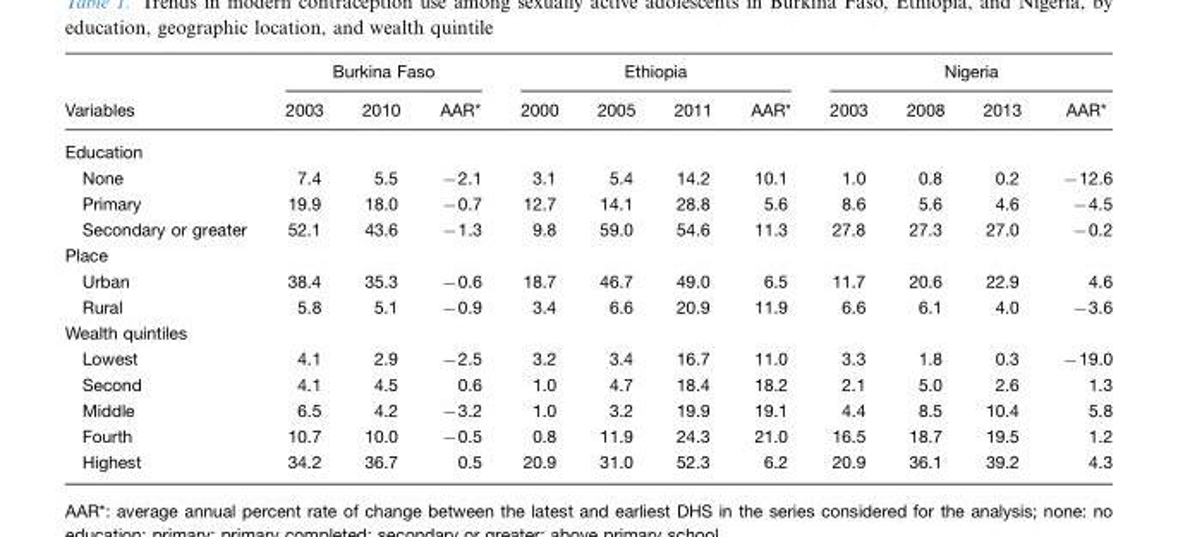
<table><thead><tr><td rowspan="2">Variables</td><td colspan="3">Burkina Faso</td><td colspan="4">Ethiopia</td><td colspan="4">Nigeria</td></tr><tr><td>2003</td><td>2010</td><td>AAR*</td><td>2000</td><td>2005</td><td>2011</td><td>AAR*</td><td>2003</td><td>2008</td><td>2013</td><td>AAR*</td></tr></thead><tbody><tr><td colspan="12">Education</td></tr><tr><td>None</td><td>7.4</td><td>5.5</td><td>−2.1</td><td>3.1</td><td>5.4</td><td>14.2</td><td>10.1</td><td>1.0</td><td>0.8</td><td>0.2</td><td>−12.6</td></tr><tr><td>Primary</td><td>19.9</td><td>18.0</td><td>−0.7</td><td>12.7</td><td>14.1</td><td>28.8</td><td>5.6</td><td>8.6</td><td>5.6</td><td>4.6</td><td>−4.5</td></tr><tr><td>Secondary or greater</td><td>52.1</td><td>43.6</td><td>−1.3</td><td>9.8</td><td>59.0</td><td>54.6</td><td>11.3</td><td>27.8</td><td>27.3</td><td>27.0</td><td>−0.2</td></tr><tr><td colspan="12">Place</td></tr><tr><td>Urban</td><td>38.4</td><td>35.3</td><td>−0.6</td><td>18.7</td><td>46.7</td><td>49.0</td><td>6.5</td><td>11.7</td><td>20.6</td><td>22.9</td><td>4.6</td></tr><tr><td>Rural</td><td>5.8</td><td>5.1</td><td>−0.9</td><td>3.4</td><td>6.6</td><td>20.9</td><td>11.9</td><td>6.6</td><td>6.1</td><td>4.0</td><td>−3.6</td></tr><tr><td colspan="12">Wealth quintiles</td></tr><tr><td>Lowest</td><td>4.1</td><td>2.9</td><td>−2.5</td><td>3.2</td><td>3.4</td><td>16.7</td><td>11.0</td><td>3.3</td><td>1.8</td><td>0.3</td><td>−19.0</td></tr><tr><td>Second</td><td>4.1</td><td>4.5</td><td>0.6</td><td>1.0</td><td>4.7</td><td>18.4</td><td>18.2</td><td>2.1</td><td>5.0</td><td>2.6</td><td>1.3</td></tr><tr><td>Middle</td><td>6.5</td><td>4.2</td><td>−3.2</td><td>1.0</td><td>3.2</td><td>19.9</td><td>19.1</td><td>4.4</td><td>8.5</td><td>10.4</td><td>5.8</td></tr><tr><td>Fourth</td><td>10.7</td><td>10.0</td><td>−0.5</td><td>0.8</td><td>11.9</td><td>24.3</td><td>21.0</td><td>16.5</td><td>18.7</td><td>19.5</td><td>1.2</td></tr><tr><td>Highest</td><td>34.2</td><td>36.7</td><td>0.5</td><td>20.9</td><td>31.0</td><td>52.3</td><td>6.2</td><td>20.9</td><td>36.1</td><td>39.2</td><td>4.3</td></tr></tbody></table>